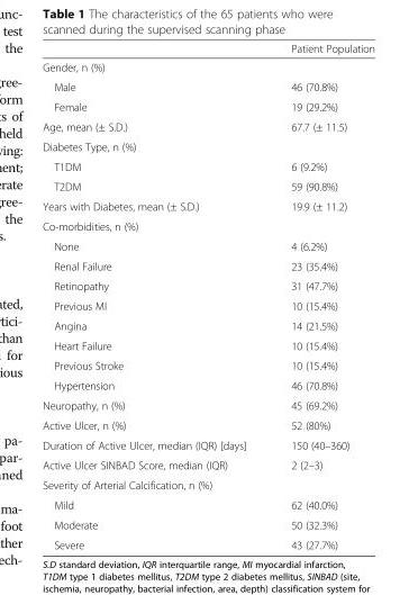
<table><thead><tr><td></td><td>Patient Population</td></tr></thead><tbody><tr><td colspan="2">Gender, n (%)</td></tr><tr><td>Male</td><td>46 (70.8%)</td></tr><tr><td>Female</td><td>19 (29.2%)</td></tr><tr><td>Age, mean (± S.D.)</td><td>67.7 (± 11.5)</td></tr><tr><td colspan="2">Diabetes Type, n (%)</td></tr><tr><td>T1DM</td><td>6 (9.2%)</td></tr><tr><td>T2DM</td><td>59 (90.8%)</td></tr><tr><td>Years with Diabetes, mean (± S.D.)</td><td>19.9 (± 11.2)</td></tr><tr><td colspan="2">Co-morbidities, n (%)</td></tr><tr><td>None</td><td>4 (6.2%)</td></tr><tr><td>Renal Failure</td><td>23 (35.4%)</td></tr><tr><td>Retinopathy</td><td>31 (47.7%)</td></tr><tr><td>Previous MI</td><td>10 (15.4%)</td></tr><tr><td>Angina</td><td>14 (21.5%)</td></tr><tr><td>Heart Failure</td><td>10 (15.4%)</td></tr><tr><td>Previous Stroke</td><td>10 (15.4%)</td></tr><tr><td>Hypertension</td><td>46 (70.8%)</td></tr><tr><td>Neuropathy, n (%)</td><td>45 (69.2%)</td></tr><tr><td>Active Ulcer, n (%)</td><td>52 (80%)</td></tr><tr><td>Duration of Active Ulcer, median (IQR) [days]</td><td>150 (40–360)</td></tr><tr><td>Active Ulcer SINBAD Score, median (IQR)</td><td>2 (2–3)</td></tr><tr><td colspan="2">Severity of Arterial Calcification, n (%)</td></tr><tr><td>Mild</td><td>62 (40.0%)</td></tr><tr><td>Moderate</td><td>50 (32.3%)</td></tr><tr><td>Severe</td><td>43 (27.7%)</td></tr></tbody></table>